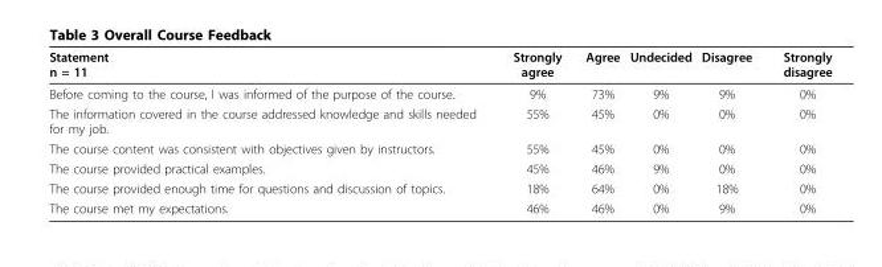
<table><thead><tr><td>Statement n = 11</td><td>Strongly agree</td><td>Agree</td><td>Undecided</td><td>Disagree</td><td>Strongly disagree</td></tr></thead><tbody><tr><td>Before coming to the course, I was informed of the purpose of the course.</td><td>9%</td><td>73%</td><td>9%</td><td>9%</td><td>0%</td></tr><tr><td>The information covered in the course addressed knowledge and skills needed for my job.</td><td>55%</td><td>45%</td><td>0%</td><td>0%</td><td>0%</td></tr><tr><td>The course content was consistent with objectives given by instructors.</td><td>55%</td><td>45%</td><td>0%</td><td>0%</td><td>0%</td></tr><tr><td>The course provided practical examples.</td><td>45%</td><td>46%</td><td>9%</td><td>0%</td><td>0%</td></tr><tr><td>The course provided enough time for questions and discussion of topics.</td><td>18%</td><td>64%</td><td>0%</td><td>18%</td><td>0%</td></tr><tr><td>The course met my expectations.</td><td>46%</td><td>46%</td><td>0%</td><td>9%</td><td>0%</td></tr></tbody></table>